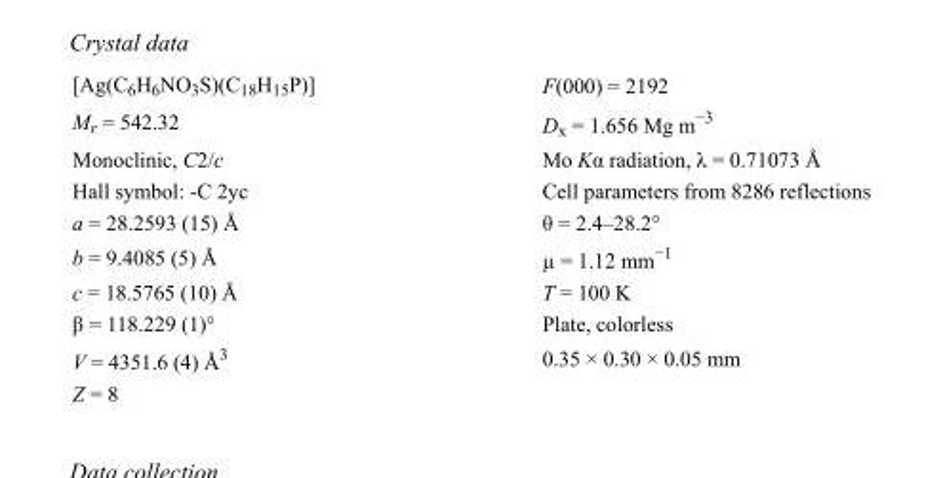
<table><tbody><tr><td>[Ag(C<sub>6</sub>H<sub>6</sub>NO<sub>3</sub>S)(C<sub>18</sub>H<sub>15</sub>P)]</td><td>F(000) = 2192</td></tr><tr><td>M<sub>r</sub> = 542.32</td><td>D<sub>x</sub> = 1.656 Mg m<sup>−3</sup></td></tr><tr><td>Monoclinic, C2/c</td><td>Mo Kα radiation, λ = 0.71073 Å</td></tr><tr><td>Hall symbol: -C 2yc</td><td>Cell parameters from 8286 reflections</td></tr><tr><td>a = 28.2593 (15) Å</td><td>θ = 2.4–28.2°</td></tr><tr><td>b = 9.4085 (5) Å</td><td>µ = 1.12 mm<sup>−1</sup></td></tr><tr><td>c = 18.5765 (10) Å</td><td>T = 100 K</td></tr><tr><td>β = 118.229 (1)°</td><td>Plate, colorless</td></tr><tr><td>V = 4351.6 (4) Å<sup>3</sup></td><td>0.35 × 0.30 × 0.05 mm</td></tr><tr><td>Z = 8</td><td></td></tr></tbody></table>